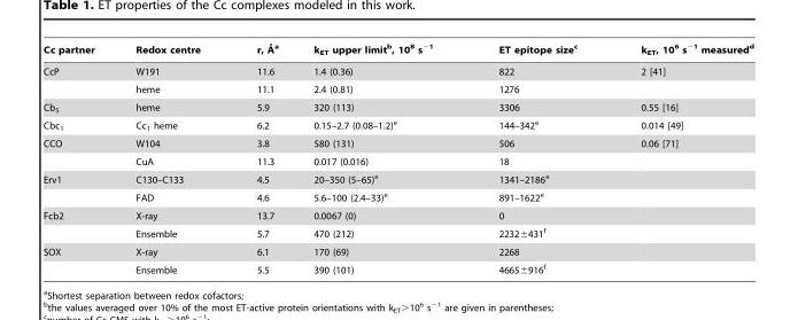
<table><thead><tr><td>Cc partner</td><td>Redox centre</td><td>r, A˚ a</td><td>k<sub>ET</sub> upper limit<sup>b</sup>, 10<sup>8</sup> s<sup>−1</sup></td><td>ET epitope size<sup>c</sup></td><td>k<sub>ET</sub>, 10<sup>6</sup> s<sup>−1</sup> measured<sup>d</sup></td></tr></thead><tbody><tr><td rowspan="2">CcP</td><td>W191</td><td>11.6</td><td>1.4 (0.36)</td><td>822</td><td>2 [41]</td></tr><tr><td>heme</td><td>11.1</td><td>2.4 (0.81)</td><td>1276</td><td></td></tr><tr><td>Cb<sub>5</sub></td><td>heme</td><td>5.9</td><td>320 (113)</td><td>3306</td><td>0.55 [16]</td></tr><tr><td>Cbc<sub>1</sub></td><td>Cc<sub>1</sub> heme</td><td>6.2</td><td>0.15–2.7 (0.08–1.2)<sup>e</sup></td><td>144–342<sup>e</sup></td><td>0.014 [49]</td></tr><tr><td rowspan="2">CCO</td><td>W104</td><td>3.8</td><td>580 (131)</td><td>506</td><td>0.06 [71]</td></tr><tr><td>CuA</td><td>11.3</td><td>0.017 (0.016)</td><td>18</td><td></td></tr><tr><td rowspan="2">Erv1</td><td>C130–C133</td><td>4.5</td><td>20–350 (5–65)<sup>e</sup></td><td>1341–2186<sup>e</sup></td><td></td></tr><tr><td>FAD</td><td>4.6</td><td>5.6–100 (2.4–33)<sup>e</sup></td><td>891–1622<sup>e</sup></td><td></td></tr><tr><td rowspan="2">Fcb2</td><td>X-ray</td><td>13.7</td><td>0.0067 (0)</td><td>0</td><td></td></tr><tr><td>Ensemble</td><td>5.7</td><td>470 (212)</td><td>2232±431<sup>f</sup></td><td></td></tr><tr><td rowspan="2">SOX</td><td>X-ray</td><td>6.1</td><td>170 (69)</td><td>2268</td><td></td></tr><tr><td>Ensemble</td><td>5.5</td><td>390 (101)</td><td>4665±916<sup>f</sup></td><td></td></tr></tbody></table>